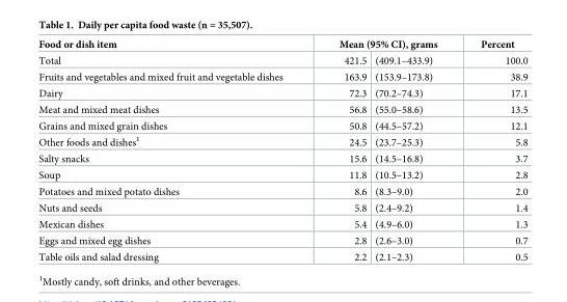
<table><thead><tr><td rowspan="2">Food or dish item Total</td><td colspan="2">Mean (95% CI), grams</td><td rowspan="2">Percent 100.0</td></tr><tr><td>421.5</td><td>(409.1–433.9)</td></tr></thead><tbody><tr><td>Fruits and vegetables and mixed fruit and vegetable dishes</td><td>163.9</td><td>(153.9–173.8)</td><td>38.9</td></tr><tr><td>Dairy</td><td>72.3</td><td>(70.2–74.3)</td><td>17.1</td></tr><tr><td>Meat and mixed meat dishes</td><td>56.8</td><td>(55.0–58.6)</td><td>13.5</td></tr><tr><td>Grains and mixed grain dishes</td><td>50.8</td><td>(44.5–57.2)</td><td>12.1</td></tr><tr><td>Other foods and dishes<sup>1</sup></td><td>24.5</td><td>(23.7–25.3)</td><td>5.8</td></tr><tr><td>Salty snacks</td><td>15.6</td><td>(14.5–16.8)</td><td>3.7</td></tr><tr><td>Soup</td><td>11.8</td><td>(10.5–13.2)</td><td>2.8</td></tr><tr><td>Potatoes and mixed potato dishes</td><td>8.6</td><td>(8.3–9.0)</td><td>2.0</td></tr><tr><td>Nuts and seeds</td><td>5.8</td><td>(2.4–9.2)</td><td>1.4</td></tr><tr><td>Mexican dishes</td><td>5.4</td><td>(4.9–6.0)</td><td>1.3</td></tr><tr><td>Eggs and mixed egg dishes</td><td>2.8</td><td>(2.6–3.0)</td><td>0.7</td></tr><tr><td>Table oils and salad dressing</td><td>2.2</td><td>(2.1–2.3)</td><td>0.5</td></tr></tbody></table>